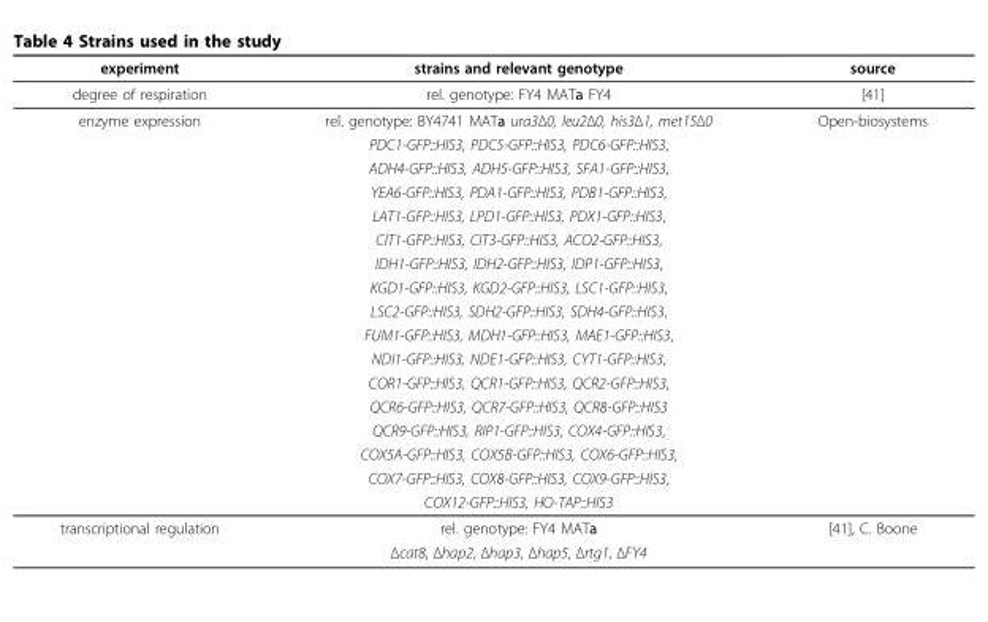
<table><thead><tr><td>experiment</td><td>strains and relevant genotype</td><td>source</td></tr></thead><tbody><tr><td>degree of respiration</td><td>rel. genotype: FY4 MATa FY4</td><td>[41]</td></tr><tr><td rowspan="17">enzyme expression</td><td>rel. genotype: BY4741 MATa ura3Δ0, leu2Δ0, his3Δ1, met15Δ0</td><td>Open-biosystems</td></tr><tr><td>PDC1-GFP::HIS3, PDC5-GFP::HIS3, PDC6-GFP::HIS3,</td><td></td></tr><tr><td>ADH4-GFP::HIS3, ADH5-GFP::HIS3, SFA1-GFP::HIS3,</td><td></td></tr><tr><td>YEA6-GFP::HIS3, PDA1-GFP::HIS3, PDB1-GFP::HIS3,</td><td></td></tr><tr><td>LAT1-GFP::HIS3, LPD1-GFP::HIS3, PDX1-GFP::HIS3,</td><td></td></tr><tr><td>CIT1-GFP::HIS3, CIT3-GFP::HIS3, ACO2-GFP::HIS3,</td><td></td></tr><tr><td>IDH1-GFP::HIS3, IDH2-GFP::HIS3, IDP1-GFP::HIS3,</td><td></td></tr><tr><td>KGD1-GFP::HIS3, KGD2-GFP::HIS3, LSC1-GFP::HIS3,</td><td></td></tr><tr><td>LSC2-GFP::HIS3, SDH2-GFP::HIS3, SDH4-GFP::HIS3,</td><td></td></tr><tr><td>FUM1-GFP::HIS3, MDH1-GFP::HIS3, MAE1-GFP::HIS3,</td><td></td></tr><tr><td>NDI1-GFP::HIS3, NDE1-GFP::HIS3, CYT1-GFP::HIS3,</td><td></td></tr><tr><td>COR1-GFP::HIS3, QCR1-GFP::HIS3, QCR2-GFP::HIS3,</td><td></td></tr><tr><td>QCR6-GFP::HIS3, QCR7-GFP::HIS3, QCR8-GFP::HIS3</td><td></td></tr><tr><td>QCR9-GFP::HIS3, RIP1-GFP::HIS3, COX4-GFP::HIS3,</td><td></td></tr><tr><td>COX5A-GFP::HIS3, COX5B-GFP::HIS3, COX6-GFP::HIS3,</td><td></td></tr><tr><td>COX7-GFP::HIS3, COX8-GFP::HIS3, COX9-GFP::HIS3,</td><td></td></tr><tr><td>COX12-GFP::HIS3, HO-TAP::HIS3</td><td></td></tr><tr><td rowspan="2">transcriptional regulation</td><td>rel. genotype: FY4 MATa</td><td>[41], C. Boone</td></tr><tr><td>Δcat8, Δhap2, Δhap3, Δhap5, Δrtg1, ΔFY4</td><td></td></tr></tbody></table>